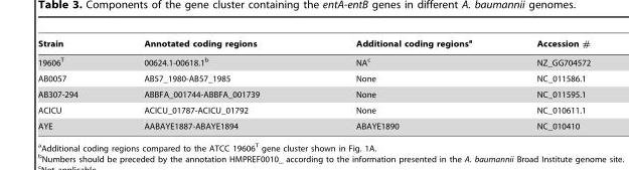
<table><thead><tr><td>Strain</td><td>Annotated coding regions</td><td>Additional coding regions<sup>a</sup></td><td>Accession #</td></tr></thead><tbody><tr><td>19606<sup>T</sup></td><td>00624.1-00618.1<sup>b</sup></td><td>NA<sup>c</sup></td><td>NZ_GG704572</td></tr><tr><td>AB0057</td><td>AB57_1980-AB57_1985</td><td>None</td><td>NC_011586.1</td></tr><tr><td>AB307-294</td><td>ABBFA_001744-ABBFA_001739</td><td>None</td><td>NC_011595.1</td></tr><tr><td>ACICU</td><td>ACICU_01787-ACICU_01792</td><td>None</td><td>NC_010611.1</td></tr><tr><td>AYE</td><td>AABAYE1887-ABAYE1894</td><td>ABAYE1890</td><td>NC_010410</td></tr></tbody></table>